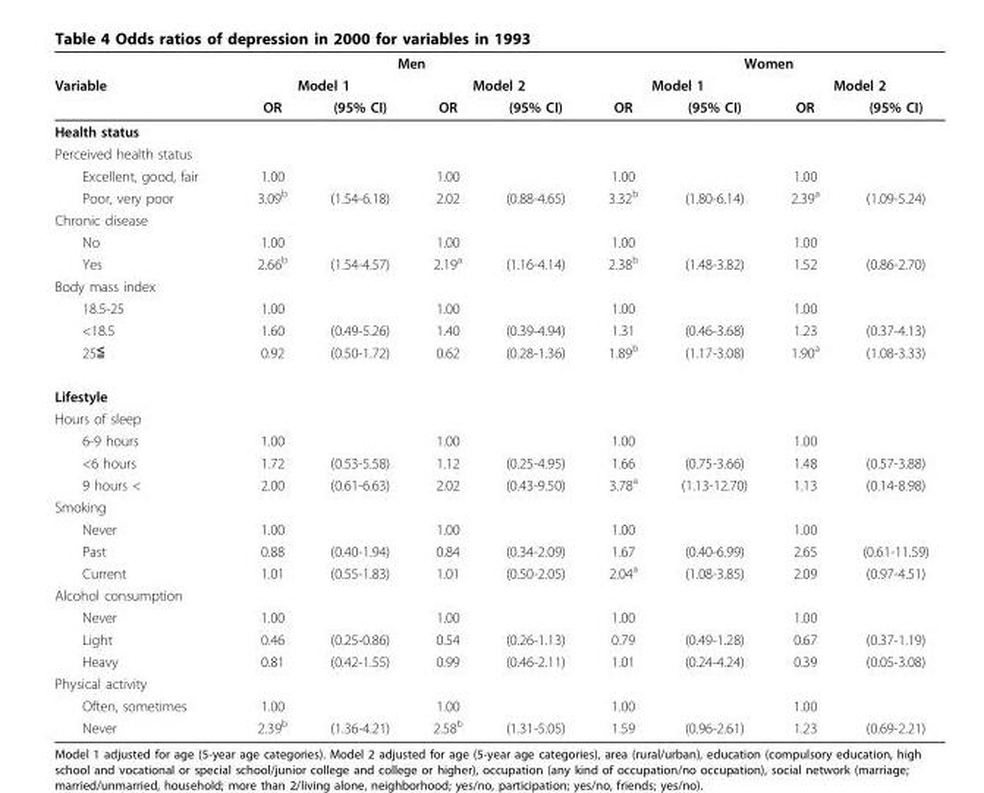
<table><thead><tr><td rowspan="3">Variable</td><td colspan="4">Men</td><td colspan="4">Women</td></tr><tr><td colspan="2">Model 1</td><td colspan="2">Model 2</td><td colspan="2">Model 1</td><td colspan="2">Model 2</td></tr><tr><td>OR</td><td>(95% CI)</td><td>OR</td><td>(95% CI)</td><td>OR</td><td>(95% CI)</td><td>OR</td><td>(95% CI)</td></tr></thead><tbody><tr><td colspan="9">Health status</td></tr><tr><td colspan="9">Perceived health status</td></tr><tr><td>Excellent, good, fair</td><td>1.00</td><td></td><td>1.00</td><td></td><td>1.00</td><td></td><td>1.00</td><td></td></tr><tr><td>Poor, very poor</td><td>3.09<sup>b</sup></td><td>(1.54-6.18)</td><td>2.02</td><td>(0.88-4.65)</td><td>3.32<sup>b</sup></td><td>(1.80-6.14)</td><td>2.39<sup>a</sup></td><td>(1.09-5.24)</td></tr><tr><td colspan="9">Chronic disease</td></tr><tr><td>No</td><td>1.00</td><td></td><td>1.00</td><td></td><td>1.00</td><td></td><td>1.00</td><td></td></tr><tr><td>Yes</td><td>2.66<sup>b</sup></td><td>(1.54-4.57)</td><td>2.19<sup>a</sup></td><td>(1.16-4.14)</td><td>2.38<sup>b</sup></td><td>(1.48-3.82)</td><td>1.52</td><td>(0.86-2.70)</td></tr><tr><td colspan="9">Body mass index</td></tr><tr><td>18.5-25</td><td>1.00</td><td></td><td>1.00</td><td></td><td>1.00</td><td></td><td>1.00</td><td></td></tr><tr><td>&lt;18.5</td><td>1.60</td><td>(0.49-5.26)</td><td>1.40</td><td>(0.39-4.94)</td><td>1.31</td><td>(0.46-3.68)</td><td>1.23</td><td>(0.37-4.13)</td></tr><tr><td>25≦</td><td>0.92</td><td>(0.50-1.72)</td><td>0.62</td><td>(0.28-1.36)</td><td>1.89<sup>b</sup></td><td>(1.17-3.08)</td><td>1.90<sup>a</sup></td><td>(1.08-3.33)</td></tr><tr><td colspan="9">Lifestyle</td></tr><tr><td colspan="9">Hours of sleep</td></tr><tr><td>6-9 hours</td><td>1.00</td><td></td><td>1.00</td><td></td><td>1.00</td><td></td><td>1.00</td><td></td></tr><tr><td>&lt;6 hours</td><td>1.72</td><td>(0.53-5.58)</td><td>1.12</td><td>(0.25-4.95)</td><td>1.66</td><td>(0.75-3.66)</td><td>1.48</td><td>(0.57-3.88)</td></tr><tr><td>9 hours &lt;</td><td>2.00</td><td>(0.61-6.63)</td><td>2.02</td><td>(0.43-9.50)</td><td>3.78<sup>a</sup></td><td>(1.13-12.70)</td><td>1.13</td><td>(0.14-8.98)</td></tr><tr><td colspan="9">Smoking</td></tr><tr><td>Never</td><td>1.00</td><td></td><td>1.00</td><td></td><td>1.00</td><td></td><td>1.00</td><td></td></tr><tr><td>Past</td><td>0.88</td><td>(0.40-1.94)</td><td>0.84</td><td>(0.34-2.09)</td><td>1.67</td><td>(0.40-6.99)</td><td>2.65</td><td>(0.61-11.59)</td></tr><tr><td>Current</td><td>1.01</td><td>(0.55-1.83)</td><td>1.01</td><td>(0.50-2.05)</td><td>2.04<sup>a</sup></td><td>(1.08-3.85)</td><td>2.09</td><td>(0.97-4.51)</td></tr><tr><td colspan="9">Alcohol consumption</td></tr><tr><td>Never</td><td>1.00</td><td></td><td>1.00</td><td></td><td>1.00</td><td></td><td>1.00</td><td></td></tr><tr><td>Light</td><td>0.46</td><td>(0.25-0.86)</td><td>0.54</td><td>(0.26-1.13)</td><td>0.79</td><td>(0.49-1.28)</td><td>0.67</td><td>(0.37-1.19)</td></tr><tr><td>Heavy</td><td>0.81</td><td>(0.42-1.55)</td><td>0.99</td><td>(0.46-2.11)</td><td>1.01</td><td>(0.24-4.24)</td><td>0.39</td><td>(0.05-3.08)</td></tr><tr><td colspan="9">Physical activity</td></tr><tr><td>Often, sometimes</td><td>1.00</td><td></td><td>1.00</td><td></td><td>1.00</td><td></td><td>1.00</td><td></td></tr><tr><td>Never</td><td>2.39<sup>b</sup></td><td>(1.36-4.21)</td><td>2.58<sup>b</sup></td><td>(1.31-5.05)</td><td>1.59</td><td>(0.96-2.61)</td><td>1.23</td><td>(0.69-2.21)</td></tr></tbody></table>